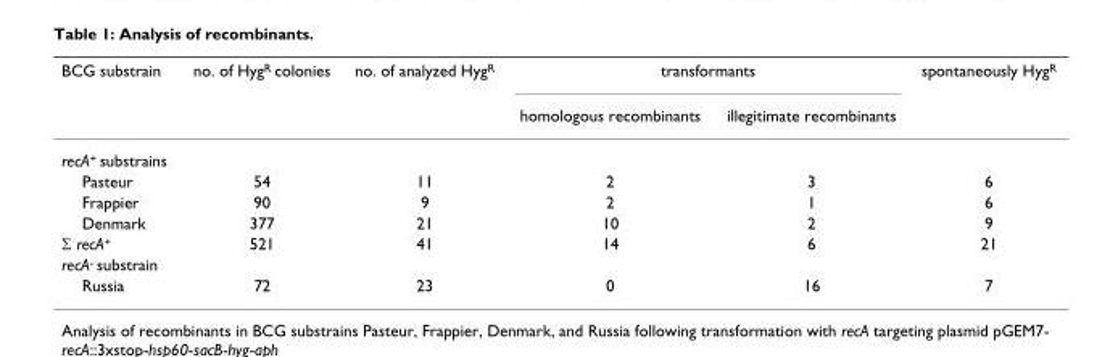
<table><thead><tr><td rowspan="2">BCG substrain</td><td rowspan="2">no. of Hyg<sup>R</sup> colonies</td><td rowspan="2">no. of analyzed Hyg<sup>R</sup></td><td colspan="2">transformants</td><td rowspan="2">spontaneously Hyg<sup>R</sup></td></tr><tr><td>homologous recombinants</td><td>illegitimate recombinants</td></tr></thead><tbody><tr><td colspan="6">recA<sup>+</sup> substrains</td></tr><tr><td>Pasteur</td><td>54</td><td>11</td><td>2</td><td>3</td><td>6</td></tr><tr><td>Frappier</td><td>90</td><td>9</td><td>2</td><td>1</td><td>6</td></tr><tr><td>Denmark</td><td>377</td><td>21</td><td>10</td><td>2</td><td>9</td></tr><tr><td>Σ recA<sup>+</sup></td><td>521</td><td>41</td><td>14</td><td>6</td><td>21</td></tr><tr><td colspan="6">recA<sup>-</sup> substrain</td></tr><tr><td>Russia</td><td>72</td><td>23</td><td>0</td><td>16</td><td>7</td></tr></tbody></table>